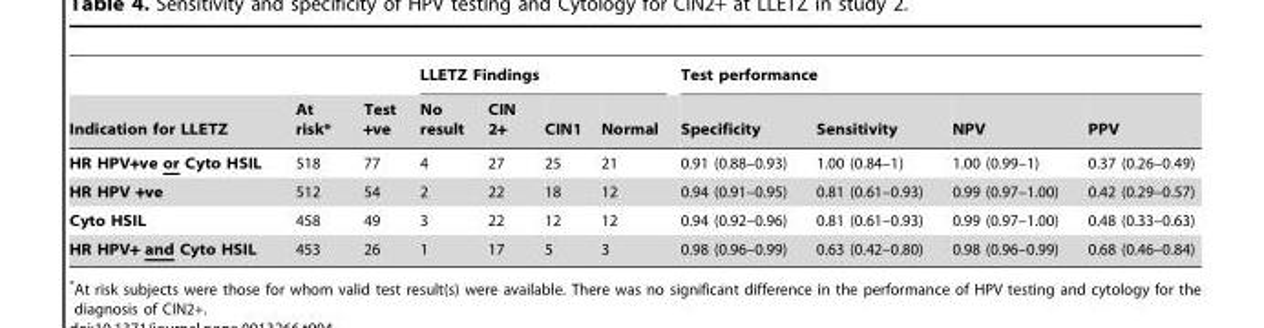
<table><thead><tr><td rowspan="2">Indication for LLETZ</td><td rowspan="2">At risk*</td><td rowspan="2">Test +ve</td><td colspan="4">LLETZ Findings</td><td colspan="4">Test performance</td></tr><tr><td>No result</td><td>CIN 2+</td><td>CIN1</td><td>Normal</td><td>Specificity</td><td>Sensitivity</td><td>NPV</td><td>PPV</td></tr></thead><tbody><tr><td>HR HPV+ve or Cyto HSIL</td><td>518</td><td>77</td><td>4</td><td>27</td><td>25</td><td>21</td><td>0.91 (0.88–0.93)</td><td>1.00 (0.84–1)</td><td>1.00 (0.99–1)</td><td>0.37 (0.26–0.49)</td></tr><tr><td>HR HPV +ve</td><td>512</td><td>54</td><td>2</td><td>22</td><td>18</td><td>12</td><td>0.94 (0.91–0.95)</td><td>0.81 (0.61–0.93)</td><td>0.99 (0.97–1.00)</td><td>0.42 (0.29–0.57)</td></tr><tr><td>Cyto HSIL</td><td>458</td><td>49</td><td>3</td><td>22</td><td>12</td><td>12</td><td>0.94 (0.92–0.96)</td><td>0.81 (0.61–0.93)</td><td>0.99 (0.97–1.00)</td><td>0.48 (0.33–0.63)</td></tr><tr><td>HR HPV+ and Cyto HSIL</td><td>453</td><td>26</td><td>1</td><td>17</td><td>5</td><td>3</td><td>0.98 (0.96–0.99)</td><td>0.63 (0.42–0.80)</td><td>0.98 (0.96–0.99)</td><td>0.68 (0.46–0.84)</td></tr></tbody></table>